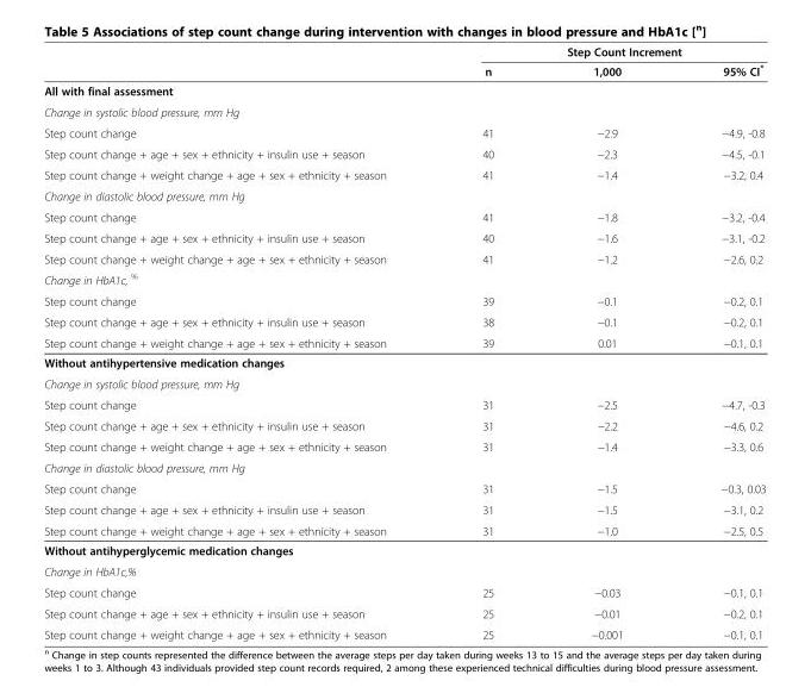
<table><thead><tr><td rowspan="2"></td><td colspan="3">Step Count Increment</td></tr><tr><td>n</td><td>1,000</td><td>95% CI*</td></tr></thead><tbody><tr><td colspan="4">All with final assessment</td></tr><tr><td colspan="4">Change in systolic blood pressure, mm Hg</td></tr><tr><td>Step count change</td><td>41</td><td>−2.9</td><td>−4.9, -0.8</td></tr><tr><td>Step count change + age + sex + ethnicity + insulin use + season</td><td>40</td><td>−2.3</td><td>−4.5, -0.1</td></tr><tr><td>Step count change + weight change + age + sex + ethnicity + season</td><td>41</td><td>−1.4</td><td>−3.2, 0.4</td></tr><tr><td colspan="4">Change in diastolic blood pressure, mm Hg</td></tr><tr><td>Step count change</td><td>41</td><td>−1.8</td><td>−3.2, -0.4</td></tr><tr><td>Step count change + age + sex + ethnicity + insulin use + season</td><td>40</td><td>−1.6</td><td>−3.1, -0.2</td></tr><tr><td>Step count change + weight change + age + sex + ethnicity + season</td><td>41</td><td>−1.2</td><td>−2.6, 0.2</td></tr><tr><td colspan="4">Change in HbA1c, <sup>%</sup></td></tr><tr><td>Step count change</td><td>39</td><td>−0.1</td><td>−0.2, 0.1</td></tr><tr><td>Step count change + age + sex + ethnicity + insulin use + season</td><td>38</td><td>−0.1</td><td>−0.2, 0.1</td></tr><tr><td>Step count change + weight change + age + sex + ethnicity + season</td><td>39</td><td>0.01</td><td>−0.1, 0.1</td></tr><tr><td colspan="4">Without antihypertensive medication changes</td></tr><tr><td colspan="4">Change in systolic blood pressure, mm Hg</td></tr><tr><td>Step count change</td><td>31</td><td>−2.5</td><td>−4.7, -0.3</td></tr><tr><td>Step count change + age + sex + ethnicity + insulin use + season</td><td>31</td><td>−2.2</td><td>−4.6, 0.2</td></tr><tr><td>Step count change + weight change + age + sex + ethnicity + season</td><td>31</td><td>−1.4</td><td>−3.3, 0.6</td></tr><tr><td colspan="4">Change in diastolic blood pressure, mm Hg</td></tr><tr><td>Step count change</td><td>31</td><td>−1.5</td><td>−0.3, 0.03</td></tr><tr><td>Step count change + age + sex + ethnicity + insulin use + season</td><td>31</td><td>−1.5</td><td>−3.1, 0.2</td></tr><tr><td>Step count change + weight change + age + sex + ethnicity + season</td><td>31</td><td>−1.0</td><td>−2.5, 0.5</td></tr><tr><td colspan="4">Without antihyperglycemic medication changes</td></tr><tr><td colspan="4">Change in HbA1c,%</td></tr><tr><td>Step count change</td><td>25</td><td>−0.03</td><td>−0.1, 0.1</td></tr><tr><td>Step count change + age + sex + ethnicity + insulin use + season</td><td>25</td><td>−0.01</td><td>−0.2, 0.1</td></tr><tr><td>Step count change + weight change + age + sex + ethnicity + season</td><td>25</td><td>−0.001</td><td>−0.1, 0.1</td></tr></tbody></table>